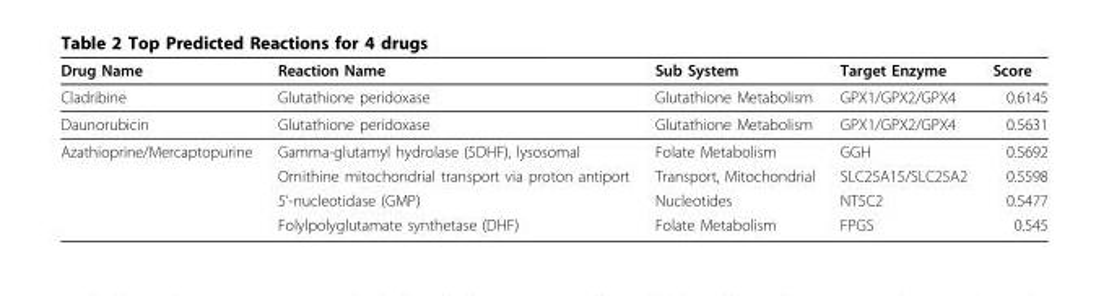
<table><thead><tr><td>Drug Name</td><td>Reaction Name</td><td>Sub System</td><td>Target Enzyme</td><td>Score</td></tr></thead><tbody><tr><td>Cladribine</td><td>Glutathione peridoxase</td><td>Glutathione Metabolism</td><td>GPX1/GPX2/GPX4</td><td>0.6145</td></tr><tr><td>Daunorubicin</td><td>Glutathione peridoxase</td><td>Glutathione Metabolism</td><td>GPX1/GPX2/GPX4</td><td>0.5631</td></tr><tr><td rowspan="4">Azathioprine/Mercaptopurine</td><td>Gamma-glutamyl hydrolase (5DHF), lysosomal</td><td>Folate Metabolism</td><td>GGH</td><td>0.5692</td></tr><tr><td>Ornithine mitochondrial transport via proton antiport</td><td>Transport, Mitochondrial</td><td>SLC25A15/SLC25A2</td><td>0.5598</td></tr><tr><td>5’-nucleotidase (GMP)</td><td>Nucleotides</td><td>NT5C2</td><td>0.5477</td></tr><tr><td>Folylpolyglutamate synthetase (DHF)</td><td>Folate Metabolism</td><td>FPGS</td><td>0.545</td></tr></tbody></table>